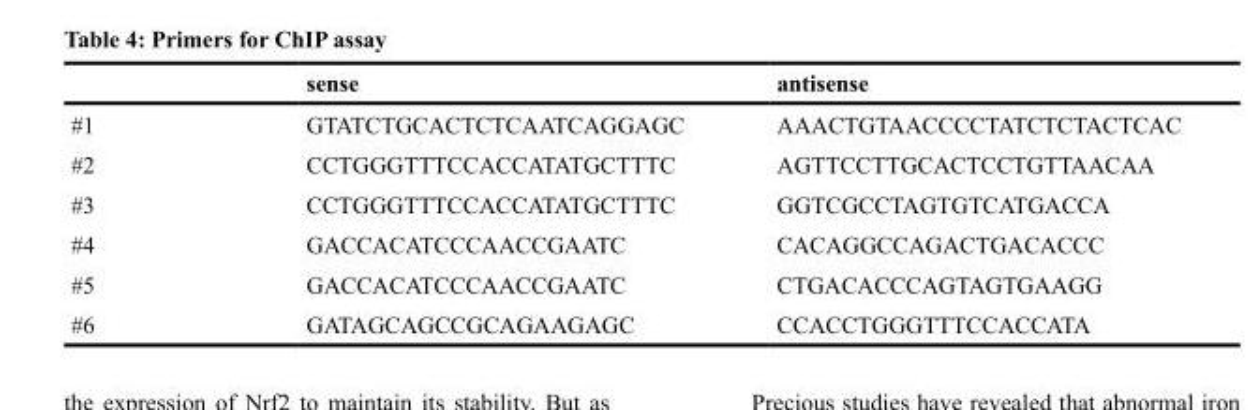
<table><thead><tr><td></td><td>sense</td><td>antisense</td></tr></thead><tbody><tr><td>#1</td><td>GTATCTGCACTCTCAATCAGGAGC</td><td>AAACTGTAACCCCTATCTCTACTCAC</td></tr><tr><td>#2</td><td>CCTGGGTTTCCACCATATGCTTTC</td><td>AGTTCCTTGCACTCCTGTTAACAA</td></tr><tr><td>#3</td><td>CCTGGGTTTCCACCATATGCTTTC</td><td>GGTCGCCTAGTGTCATGACCA</td></tr><tr><td>#4</td><td>GACCACATCCCAACCGAATC</td><td>CACAGGCCAGACTGACACCC</td></tr><tr><td>#5</td><td>GACCACATCCCAACCGAATC</td><td>CTGACACCCAGTAGTGAAGG</td></tr><tr><td>#6</td><td>GATAGCAGCCGCAGAAGAGC</td><td>CCACCTGGGTTTCCACCATA</td></tr></tbody></table>